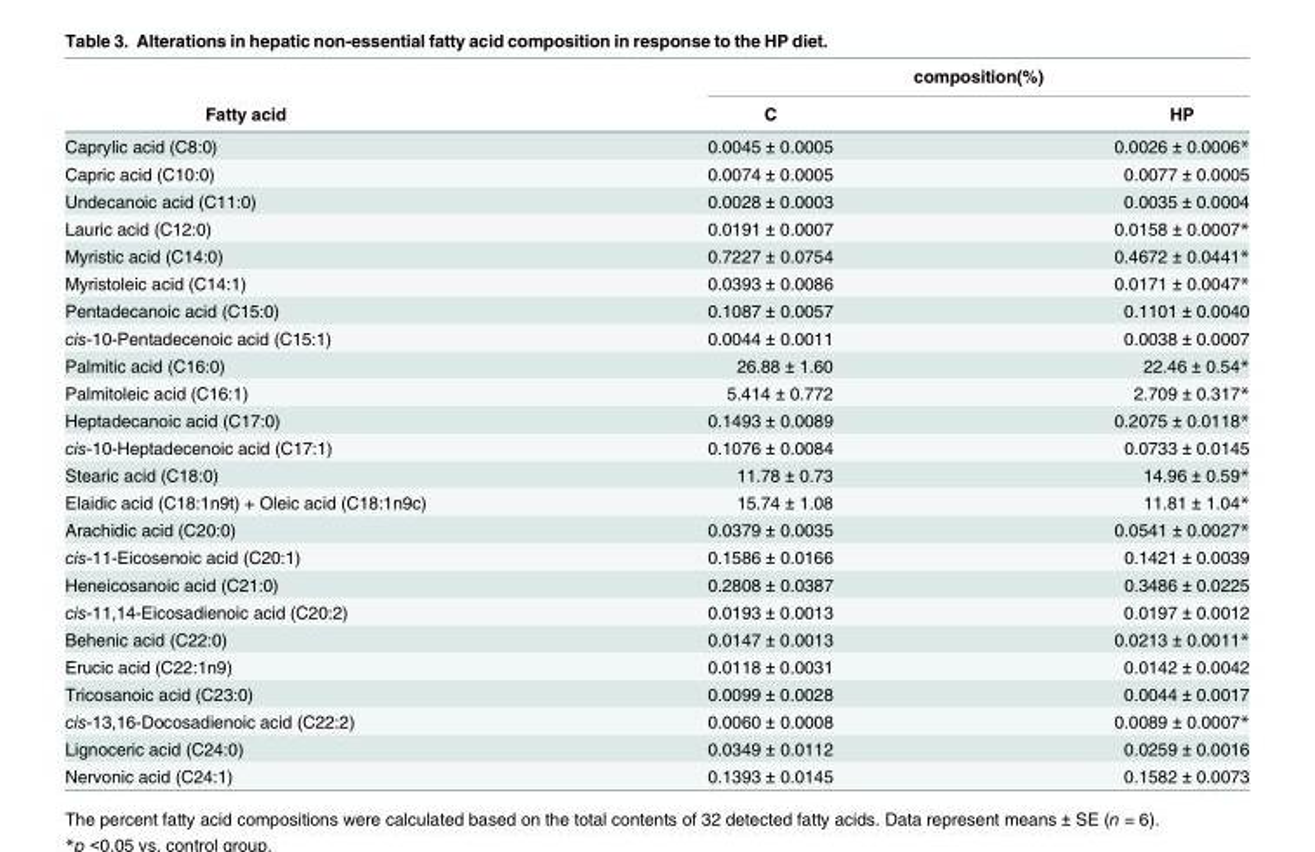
<table><thead><tr><td rowspan="2">Fatty acid</td><td colspan="2">composition(%)</td></tr><tr><td>C</td><td>HP</td></tr></thead><tbody><tr><td>Caprylic acid (C8:0)</td><td>0.0045 ± 0.0005</td><td>0.0026 ± 0.0006*</td></tr><tr><td>Capric acid (C10:0)</td><td>0.0074 ± 0.0005</td><td>0.0077 ± 0.0005</td></tr><tr><td>Undecanoic acid (C11:0)</td><td>0.0028 ± 0.0003</td><td>0.0035 ± 0.0004</td></tr><tr><td>Lauric acid (C12:0)</td><td>0.0191 ± 0.0007</td><td>0.0158 ± 0.0007*</td></tr><tr><td>Myristic acid (C14:0)</td><td>0.7227 ± 0.0754</td><td>0.4672 ± 0.0441*</td></tr><tr><td>Myristoleic acid (C14:1)</td><td>0.0393 ± 0.0086</td><td>0.0171 ± 0.0047*</td></tr><tr><td>Pentadecanoic acid (C15:0)</td><td>0.1087 ± 0.0057</td><td>0.1101 ± 0.0040</td></tr><tr><td>cis-10-Pentadecenoic acid (C15:1)</td><td>0.0044 ± 0.0011</td><td>0.0038 ± 0.0007</td></tr><tr><td>Palmitic acid (C16:0)</td><td>26.88 ± 1.60</td><td>22.46 ± 0.54*</td></tr><tr><td>Palmitoleic acid (C16:1)</td><td>5.414 ± 0.772</td><td>2.709 ± 0.317*</td></tr><tr><td>Heptadecanoic acid (C17:0)</td><td>0.1493 ± 0.0089</td><td>0.2075 ± 0.0118*</td></tr><tr><td>cis-10-Heptadecenoic acid (C17:1)</td><td>0.1076 ± 0.0084</td><td>0.0733 ± 0.0145</td></tr><tr><td>Stearic acid (C18:0)</td><td>11.78 ± 0.73</td><td>14.96 ± 0.59*</td></tr><tr><td>Elaidic acid (C18:1n9t) + Oleic acid (C18:1n9c)</td><td>15.74 ± 1.08</td><td>11.81 ± 1.04*</td></tr><tr><td>Arachidic acid (C20:0)</td><td>0.0379 ± 0.0035</td><td>0.0541 ± 0.0027*</td></tr><tr><td>cis-11-Eicosenoic acid (C20:1)</td><td>0.1586 ± 0.0166</td><td>0.1421 ± 0.0039</td></tr><tr><td>Heneicosanoic acid (C21:0)</td><td>0.2808 ± 0.0387</td><td>0.3486 ± 0.0225</td></tr><tr><td>cis-11,14-Eicosadienoic acid (C20:2)</td><td>0.0193 ± 0.0013</td><td>0.0197 ± 0.0012</td></tr><tr><td>Behenic acid (C22:0)</td><td>0.0147 ± 0.0013</td><td>0.0213 ± 0.0011*</td></tr><tr><td>Erucic acid (C22:1n9)</td><td>0.0118 ± 0.0031</td><td>0.0142 ± 0.0042</td></tr><tr><td>Tricosanoic acid (C23:0)</td><td>0.0099 ± 0.0028</td><td>0.0044 ± 0.0017</td></tr><tr><td>cis-13,16-Docosadienoic acid (C22:2)</td><td>0.0060 ± 0.0008</td><td>0.0089 ± 0.0007*</td></tr><tr><td>Lignoceric acid (C24:0)</td><td>0.0349 ± 0.0112</td><td>0.0259 ± 0.0016</td></tr><tr><td>Nervonic acid (C24:1)</td><td>0.1393 ± 0.0145</td><td>0.1582 ± 0.0073</td></tr></tbody></table>